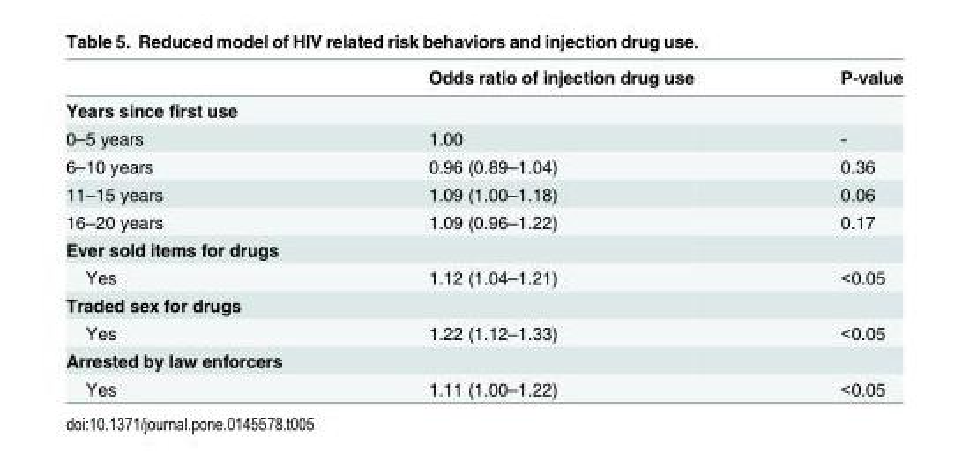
<table><thead><tr><td></td><td>Odds ratio of injection drug use</td><td>P-value</td></tr></thead><tbody><tr><td colspan="3">Years since first use</td></tr><tr><td>0–5 years</td><td>1.00</td><td>-</td></tr><tr><td>6–10 years</td><td>0.96 (0.89–1.04)</td><td>0.36</td></tr><tr><td>11–15 years</td><td>1.09 (1.00–1.18)</td><td>0.06</td></tr><tr><td>16–20 years</td><td>1.09 (0.96–1.22)</td><td>0.17</td></tr><tr><td colspan="3">Ever sold items for drugs</td></tr><tr><td>Yes</td><td>1.12 (1.04–1.21)</td><td>&lt;0.05</td></tr><tr><td colspan="3">Traded sex for drugs</td></tr><tr><td>Yes</td><td>1.22 (1.12–1.33)</td><td>&lt;0.05</td></tr><tr><td colspan="3">Arrested by law enforcers</td></tr><tr><td>Yes</td><td>1.11 (1.00–1.22)</td><td>&lt;0.05</td></tr></tbody></table>